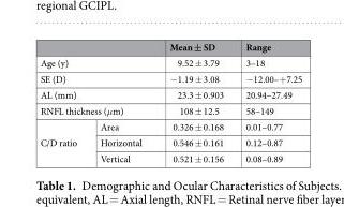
<table><thead><tr><td></td><td></td><td>Mean ± SD</td><td>Range</td></tr></thead><tbody><tr><td colspan="2">Age (y)</td><td>9.52 ± 3.79</td><td>3–18</td></tr><tr><td colspan="2">SE (D)</td><td>−1.19 ± 3.08</td><td>−12.00–+7.25</td></tr><tr><td colspan="2">AL (mm)</td><td>23.3 ± 0.903</td><td>20.94–27.49</td></tr><tr><td colspan="2">RNFL thickness (μm)</td><td>108 ± 12.5</td><td>58–149</td></tr><tr><td rowspan="3">C/D ratio</td><td>Area</td><td>0.326 ± 0.168</td><td>0.01–0.77</td></tr><tr><td>Horizontal</td><td>0.546 ± 0.161</td><td>0.12–0.87</td></tr><tr><td>Vertical</td><td>0.521 ± 0.156</td><td>0.08–0.89</td></tr></tbody></table>